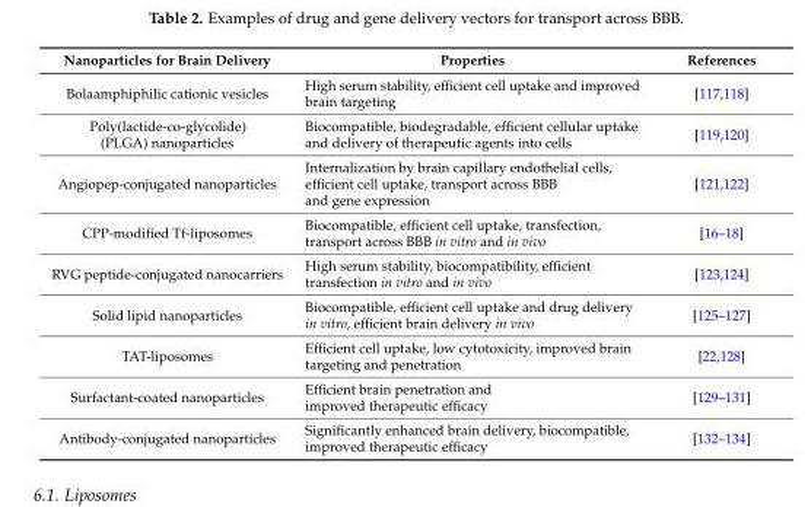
<table><thead><tr><td>Nanoparticles for Brain Delivery</td><td>Properties</td><td>References</td></tr></thead><tbody><tr><td>Bolaamphiphilic cationic vesicles</td><td>High serum stability, efficient cell uptake and improved brain targeting</td><td>[117,118]</td></tr><tr><td>Poly(lactide-co-glycolide) (PLGA) nanoparticles</td><td>Biocompatible, biodegradable, efficient cellular uptake and delivery of therapeutic agents into cells</td><td>[119,120]</td></tr><tr><td>Angiopep-conjugated nanoparticles</td><td>Internalization by brain capillary endothelial cells, efficient cell uptake, transport across BBB and gene expression</td><td>[121,122]</td></tr><tr><td>CPP-modified Tf-liposomes</td><td>Biocompatible, efficient cell uptake, transfection, transport across BBB in vitro and in vivo</td><td>[16–18]</td></tr><tr><td>RVG peptide-conjugated nanocarriers</td><td>High serum stability, biocompatibility, efficient transfection in vitro and in vivo</td><td>[123,124]</td></tr><tr><td>Solid lipid nanoparticles</td><td>Biocompatible, efficient cell uptake and drug delivery in vitro, efficient brain delivery in vivo</td><td>[125–127]</td></tr><tr><td>TAT-liposomes</td><td>Efficient cell uptake, low cytotoxicity, improved brain targeting and penetration</td><td>[22,128]</td></tr><tr><td>Surfactant-coated nanoparticles</td><td>Efficient brain penetration and improved therapeutic efficacy</td><td>[129–131]</td></tr><tr><td>Antibody-conjugated nanoparticles</td><td>Significantly enhanced brain delivery, biocompatible, improved therapeutic efficacy</td><td>[132–134]</td></tr></tbody></table>